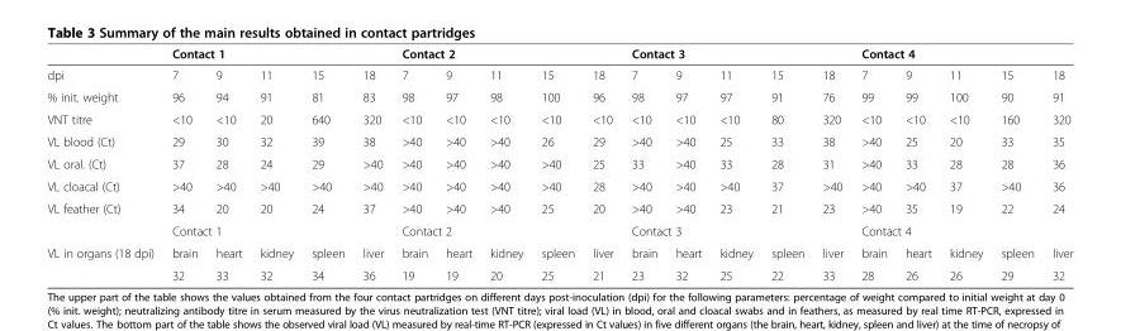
<table><thead><tr><td rowspan="2">dpi</td><td colspan="5">Contact 1</td><td colspan="5">Contact 2</td><td colspan="5">Contact 3</td><td colspan="5">Contact 4</td></tr><tr><td>7</td><td>9</td><td>11</td><td>15</td><td>18</td><td>7</td><td>9</td><td>11</td><td>15</td><td>18</td><td>7</td><td>9</td><td>11</td><td>15</td><td>18</td><td>7</td><td>9</td><td>11</td><td>15</td><td>18</td></tr></thead><tbody><tr><td>% init. weight</td><td>96</td><td>94</td><td>91</td><td>81</td><td>83</td><td>98</td><td>97</td><td>98</td><td>100</td><td>96</td><td>98</td><td>97</td><td>97</td><td>91</td><td>76</td><td>99</td><td>99</td><td>100</td><td>90</td><td>91</td></tr><tr><td>VNT titre</td><td>&lt;10</td><td>&lt;10</td><td>20</td><td>640</td><td>320</td><td>&lt;10</td><td>&lt;10</td><td>&lt;10</td><td>&lt;10</td><td>&lt;10</td><td>&lt;10</td><td>&lt;10</td><td>&lt;10</td><td>80</td><td>320</td><td>&lt;10</td><td>&lt;10</td><td>&lt;10</td><td>160</td><td>320</td></tr><tr><td>VL blood (Ct)</td><td>29</td><td>30</td><td>32</td><td>39</td><td>38</td><td>&gt;40</td><td>&gt;40</td><td>&gt;40</td><td>26</td><td>29</td><td>&gt;40</td><td>&gt;40</td><td>25</td><td>33</td><td>38</td><td>&gt;40</td><td>25</td><td>20</td><td>33</td><td>35</td></tr><tr><td>VL oral. (Ct)</td><td>37</td><td>28</td><td>24</td><td>29</td><td>&gt;40</td><td>&gt;40</td><td>&gt;40</td><td>&gt;40</td><td>&gt;40</td><td>25</td><td>33</td><td>&gt;40</td><td>33</td><td>28</td><td>31</td><td>&gt;40</td><td>33</td><td>28</td><td>28</td><td>36</td></tr><tr><td>VL cloacal (Ct)</td><td>&gt;40</td><td>&gt;40</td><td>&gt;40</td><td>&gt;40</td><td>&gt;40</td><td>&gt;40</td><td>&gt;40</td><td>&gt;40</td><td>&gt;40</td><td>28</td><td>&gt;40</td><td>&gt;40</td><td>&gt;40</td><td>37</td><td>&gt;40</td><td>&gt;40</td><td>&gt;40</td><td>37</td><td>&gt;40</td><td>36</td></tr><tr><td rowspan="2">VL feather (Ct)</td><td>34</td><td>20</td><td>20</td><td>24</td><td>37</td><td>&gt;40</td><td>&gt;40</td><td>&gt;40</td><td>25</td><td>20</td><td>&gt;40</td><td>&gt;40</td><td>23</td><td>21</td><td>23</td><td>&gt;40</td><td>35</td><td>19</td><td>22</td><td>24</td></tr><tr><td colspan="5">Contact 1</td><td colspan="5">Contact 2</td><td colspan="5">Contact 3</td><td colspan="5">Contact 4</td></tr><tr><td rowspan="2">VL in organs (18 dpi)</td><td>brain</td><td>heart</td><td>kidney</td><td>spleen</td><td>liver</td><td>brain</td><td>heart</td><td>kidney</td><td>spleen</td><td>liver</td><td>brain</td><td>heart</td><td>kidney</td><td>spleen</td><td>liver</td><td>brain</td><td>heart</td><td>kidney</td><td>spleen</td><td>liver</td></tr><tr><td>32</td><td>33</td><td>32</td><td>34</td><td>36</td><td>19</td><td>19</td><td>20</td><td>25</td><td>21</td><td>23</td><td>32</td><td>25</td><td>22</td><td>33</td><td>28</td><td>26</td><td>26</td><td>29</td><td>32</td></tr></tbody></table>